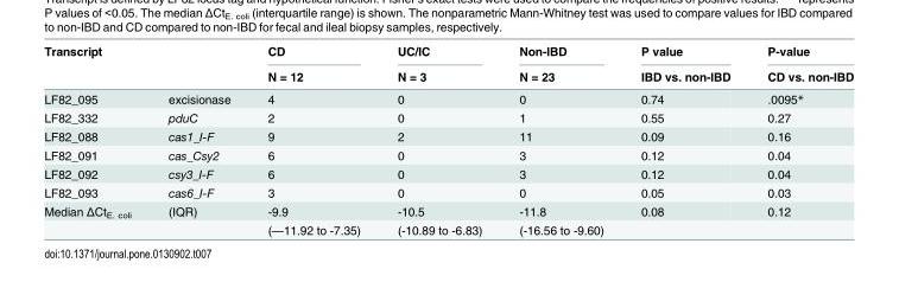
<table><thead><tr><td rowspan="2">Transcript</td><td rowspan="2"></td><td rowspan="2">CD N = 12</td><td rowspan="2">UC/IC N = 3</td><td rowspan="2">Non-IBD N = 23</td><td rowspan="2">P value IBD vs. non-IBD</td><td rowspan="2">P-value CD vs. non-IBD</td></tr><tr></tr></thead><tbody><tr><td>LF82_095</td><td>excisionase</td><td>4</td><td>0</td><td>0</td><td>0.74</td><td>.0095*</td></tr><tr><td>LF82_332</td><td>pduC</td><td>2</td><td>0</td><td>1</td><td>0.55</td><td>0.27</td></tr><tr><td>LF82_088</td><td>cas1_I-F</td><td>9</td><td>2</td><td>11</td><td>0.09</td><td>0.16</td></tr><tr><td>LF82_091</td><td>cas_Csy2</td><td>6</td><td>0</td><td>3</td><td>0.12</td><td>0.04</td></tr><tr><td>LF82_092</td><td>csy3_I-F</td><td>6</td><td>0</td><td>3</td><td>0.12</td><td>0.04</td></tr><tr><td>LF82_093</td><td>cas6_I-F</td><td>3</td><td>0</td><td>0</td><td>0.05</td><td>0.03</td></tr><tr><td rowspan="2">Median ΔCt<sub>E. coli</sub></td><td>(IQR)</td><td>-9.9</td><td>-10.5</td><td>-11.8</td><td>0.08</td><td>0.12</td></tr><tr><td></td><td>(—11.92 to -7.35)</td><td>(-10.89 to -6.83)</td><td>(-16.56 to -9.60)</td><td></td><td></td></tr></tbody></table>